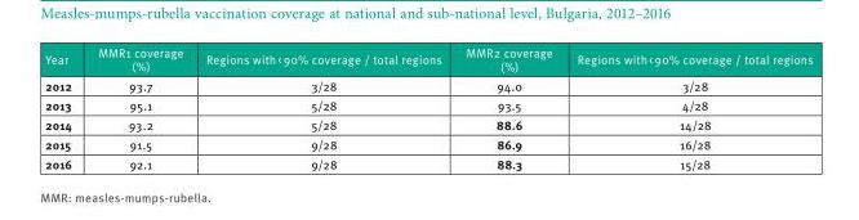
<table><thead><tr><td>Year</td><td>MMR1 coverage (%)</td><td>Regions with &lt; 90% coverage / total regions</td><td>MMR2 coverage (%)</td><td>Regions with &lt; 90% coverage / total regions</td></tr></thead><tbody><tr><td>2012</td><td>93.7</td><td>3/28</td><td>94.0</td><td>3/28</td></tr><tr><td>2013</td><td>95.1</td><td>5/28</td><td>93.5</td><td>4/28</td></tr><tr><td>2014</td><td>93.2</td><td>5/28</td><td>88.6</td><td>14/28</td></tr><tr><td>2015</td><td>91.5</td><td>9/28</td><td>86.9</td><td>16/28</td></tr><tr><td>2016</td><td>92.1</td><td>9/28</td><td>88.3</td><td>15/28</td></tr></tbody></table>